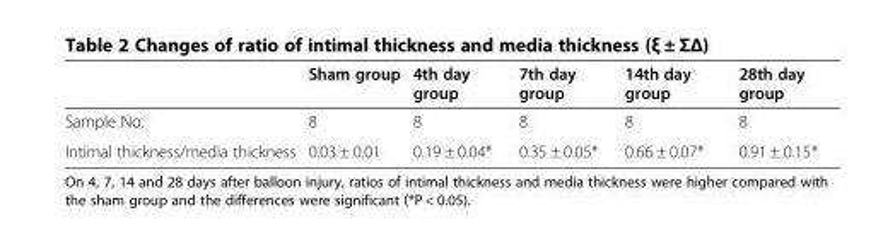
<table><thead><tr><td></td><td>Sham group</td><td>4th day group</td><td>7th day group</td><td>14th day group</td><td>28th day group</td></tr></thead><tbody><tr><td>Sample No.</td><td>8</td><td>8</td><td>8</td><td>8</td><td>8</td></tr><tr><td>Intimal thickness/media thickness</td><td>0.03 ± 0.01</td><td>0.19 ± 0.04*</td><td>0.35 ± 0.05*</td><td>0.66 ± 0.07*</td><td>0.91 ± 0.15*</td></tr></tbody></table>